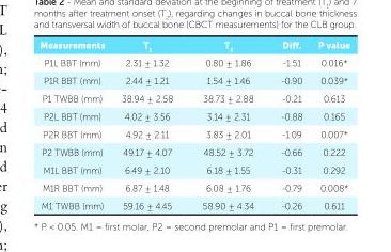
<table><thead><tr><td>Measurements</td><td>T<sub>1</sub></td><td>T<sub>2</sub></td><td>Diff.</td><td>P value</td></tr></thead><tbody><tr><td>P1L BBT (mm)</td><td>2.31 ± 1.32</td><td>0.80 ± 1.86</td><td>-1.51</td><td>0.016*</td></tr><tr><td>P1R BBT (mm)</td><td>2.44 ± 1.21</td><td>1.54 ± 1.46</td><td>-0.90</td><td>0.039*</td></tr><tr><td>P1 TWBB (mm)</td><td>38.94 ± 2.58</td><td>38.73 ± 2.88</td><td>-0.21</td><td>0.613</td></tr><tr><td>P2L BBT (mm)</td><td>4.02 ± 3.56</td><td>3.14 ± 2.31</td><td>-0.88</td><td>0.165</td></tr><tr><td>P2R BBT (mm)</td><td>4.92 ± 2.11</td><td>3.83 ± 2.01</td><td>-1.09</td><td>0.007*</td></tr><tr><td>P2 TWBB (mm)</td><td>49.17 ± 4.07</td><td>48.52 ± 3.72</td><td>-0.66</td><td>0.222</td></tr><tr><td>M1L BBT (mm)</td><td>6.49 ± 2.10</td><td>6.18 ± 1.55</td><td>-0.31</td><td>0.292</td></tr><tr><td>M1R BBT (mm)</td><td>6.87 ± 1.48</td><td>6.08 ± 1.76</td><td>-0.79</td><td>0.008*</td></tr><tr><td>M1 TWBB (mm)</td><td>59.16 ± 4.45</td><td>58.90 ± 4.34</td><td>-0.26</td><td>0.611</td></tr></tbody></table>